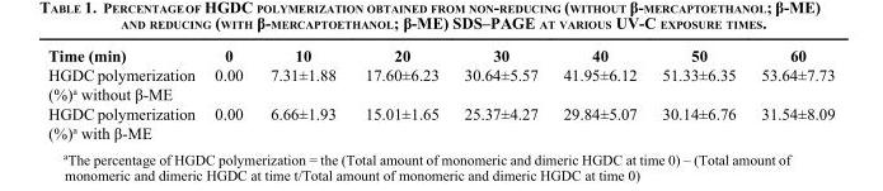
<table><thead><tr><td>Time (min)</td><td>0</td><td>10</td><td>20</td><td>30</td><td>40</td><td>50</td><td>60</td></tr></thead><tbody><tr><td>HGDC polymerization (%)<sup>a</sup> without β-ME</td><td>0.00</td><td>7.31±1.88</td><td>17.60±6.23</td><td>30.64±5.57</td><td>41.95±6.12</td><td>51.33±6.35</td><td>53.64±7.73</td></tr><tr><td>HGDC polymerization (%)<sup>a</sup> with β-ME</td><td>0.00</td><td>6.66±1.93</td><td>15.01±1.65</td><td>25.37±4.27</td><td>29.84±5.07</td><td>30.14±6.76</td><td>31.54±8.09</td></tr></tbody></table>